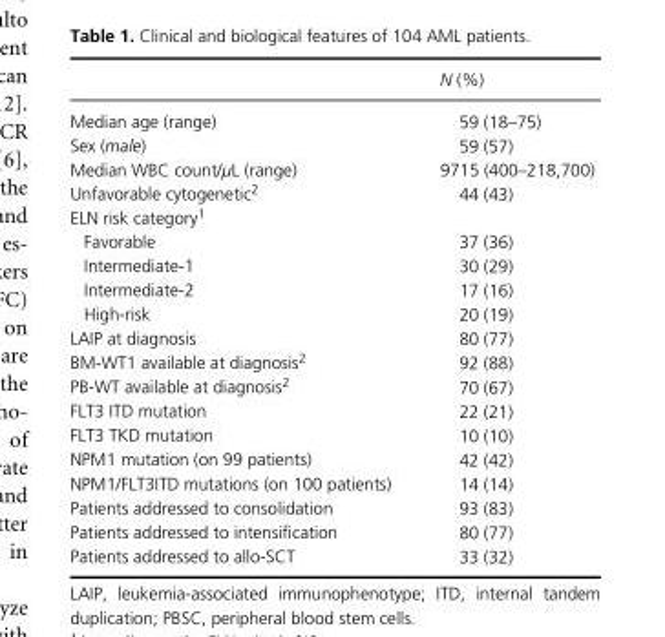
<table><thead><tr><td></td><td>N (%)</td></tr></thead><tbody><tr><td>Median age (range)</td><td>59 (18–75)</td></tr><tr><td>Sex (male)</td><td>59 (57)</td></tr><tr><td>Median WBC count/μL (range)</td><td>9715 (400–218,700)</td></tr><tr><td>Unfavorable cytogenetic2</td><td>44 (43)</td></tr><tr><td colspan="2">ELN risk category1</td></tr><tr><td>Favorable</td><td>37 (36)</td></tr><tr><td>Intermediate- 1</td><td>30 (29)</td></tr><tr><td>Intermediate- 2</td><td>17 (16)</td></tr><tr><td>High- risk</td><td>20 (19)</td></tr><tr><td>LAIP at diagnosis</td><td>80 (77)</td></tr><tr><td>BM- WT1 available at diagnosis2</td><td>92 (88)</td></tr><tr><td>PB- WT available at diagnosis2</td><td>70 (67)</td></tr><tr><td>FLT3 ITD mutation</td><td>22 (21)</td></tr><tr><td>FLT3 TKD mutation</td><td>10 (10)</td></tr><tr><td>NPM1 mutation (on 99 patients)</td><td>42 (42)</td></tr><tr><td>NPM1/FLT3ITD mutations (on 100 patients)</td><td>14 (14)</td></tr><tr><td>Patients addressed to consolidation</td><td>93 (83)</td></tr><tr><td>Patients addressed to intensification</td><td>80 (77)</td></tr><tr><td>Patients addressed to allo- SCT</td><td>33 (32)</td></tr></tbody></table>